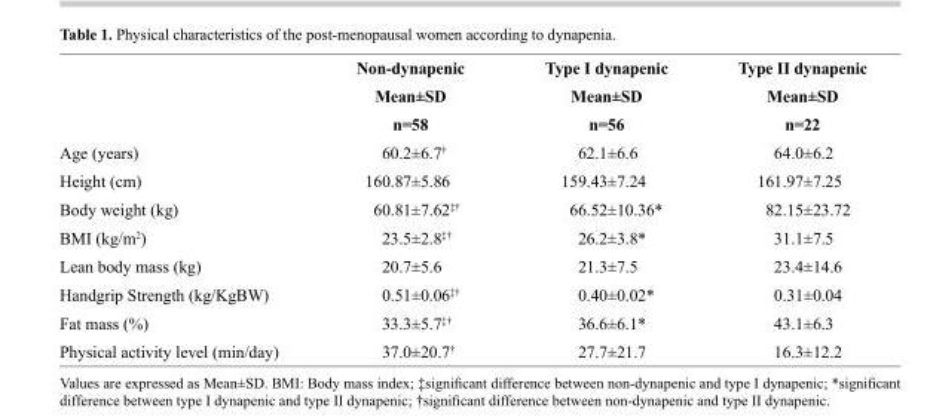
<table><thead><tr><td rowspan="3"></td><td rowspan="3">Non-dynapenic Mean±SD n=58</td><td rowspan="3">Type I dynapenic Mean±SD n=56</td><td rowspan="3">Type II dynapenic Mean±SD n=22</td></tr><tr></tr><tr></tr></thead><tbody><tr><td>Age (years)</td><td>60.2±6.7†</td><td>62.1±6.6</td><td>64.0±6.2</td></tr><tr><td>Height (cm)</td><td>160.87±5.86</td><td>159.43±7.24</td><td>161.97±7.25</td></tr><tr><td>Body weight (kg)</td><td>60.81±7.62‡†</td><td>66.52±10.36*</td><td>82.15±23.72</td></tr><tr><td>BMI (kg/m<sup>2</sup>)</td><td>23.5±2.8‡†</td><td>26.2±3.8*</td><td>31.1±7.5</td></tr><tr><td>Lean body mass (kg)</td><td>20.7±5.6</td><td>21.3±7.5</td><td>23.4±14.6</td></tr><tr><td>Handgrip Strength (kg/KgBW)</td><td>0.51±0.06‡†</td><td>0.40±0.02*</td><td>0.31±0.04</td></tr><tr><td>Fat mass (%)</td><td>33.3±5.7‡†</td><td>36.6±6.1*</td><td>43.1±6.3</td></tr><tr><td>Physical activity level (min/day)</td><td>37.0±20.7†</td><td>27.7±21.7</td><td>16.3±12.2</td></tr></tbody></table>